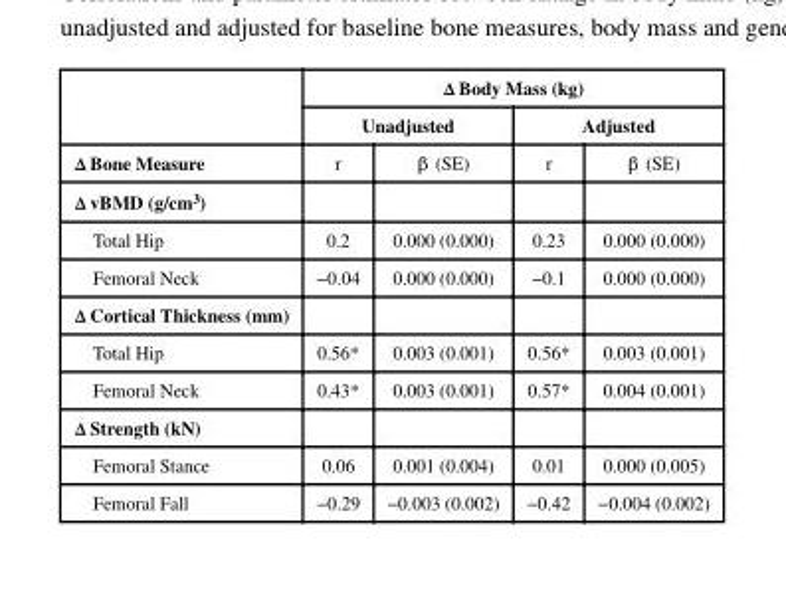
<table><thead><tr><td rowspan="3">Δ Bone Measure</td><td colspan="4">Δ Body Mass (kg)</td></tr><tr><td colspan="2">Unadjusted</td><td colspan="2">Adjusted</td></tr><tr><td>r</td><td>β (SE)</td><td>r</td><td>β (SE)</td></tr></thead><tbody><tr><td colspan="5">Δ vBMD (g/cm<sup>3</sup>)</td></tr><tr><td>Total Hip</td><td>0.2</td><td>0.000 (0.000)</td><td>0.23</td><td>0.000 (0.000)</td></tr><tr><td>Femoral Neck</td><td>−0.04</td><td>0.000 (0.000)</td><td>−0.1</td><td>0.000 (0.000)</td></tr><tr><td colspan="5">Δ Cortical Thickness (mm)</td></tr><tr><td>Total Hip</td><td>0.56*</td><td>0.003 (0.001)</td><td>0.56*</td><td>0.003 (0.001)</td></tr><tr><td>Femoral Neck</td><td>0.43*</td><td>0.003 (0.001)</td><td>0.57*</td><td>0.004 (0.001)</td></tr><tr><td colspan="5">Δ Strength (kN)</td></tr><tr><td>Femoral Stance</td><td>0.06</td><td>0.001 (0.004)</td><td>0.01</td><td>0.000 (0.005)</td></tr><tr><td>Femoral Fall</td><td>−0.29</td><td>−0.003 (0.002)</td><td>−0.42</td><td>−0.004 (0.002)</td></tr></tbody></table>